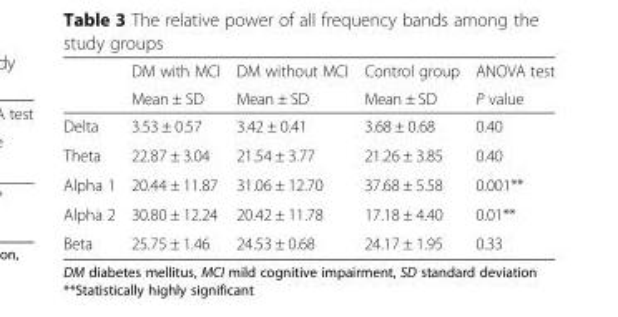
<table><thead><tr><td rowspan="2"></td><td rowspan="2">DM with MCI Mean ± SD</td><td rowspan="2">DM without MCI Mean ± SD</td><td rowspan="2">Control group Mean ± SD</td><td rowspan="2">ANOVA test P value</td></tr><tr></tr></thead><tbody><tr><td>Delta</td><td>3.53 ± 0.57</td><td>3.42 ± 0.41</td><td>3.68 ± 0.68</td><td>0.40</td></tr><tr><td>Theta</td><td>22.87 ± 3.04</td><td>21.54 ± 3.77</td><td>21.26 ± 3.85</td><td>0.40</td></tr><tr><td>Alpha 1</td><td>20.44 ± 11.87</td><td>31.06 ± 12.70</td><td>37.68 ± 5.58</td><td>0.001**</td></tr><tr><td>Alpha 2</td><td>30.80 ± 12.24</td><td>20.42 ± 11.78</td><td>17.18 ± 4.40</td><td>0.01**</td></tr><tr><td>Beta</td><td>25.75 ± 1.46</td><td>24.53 ± 0.68</td><td>24.17 ± 1.95</td><td>0.33</td></tr></tbody></table>